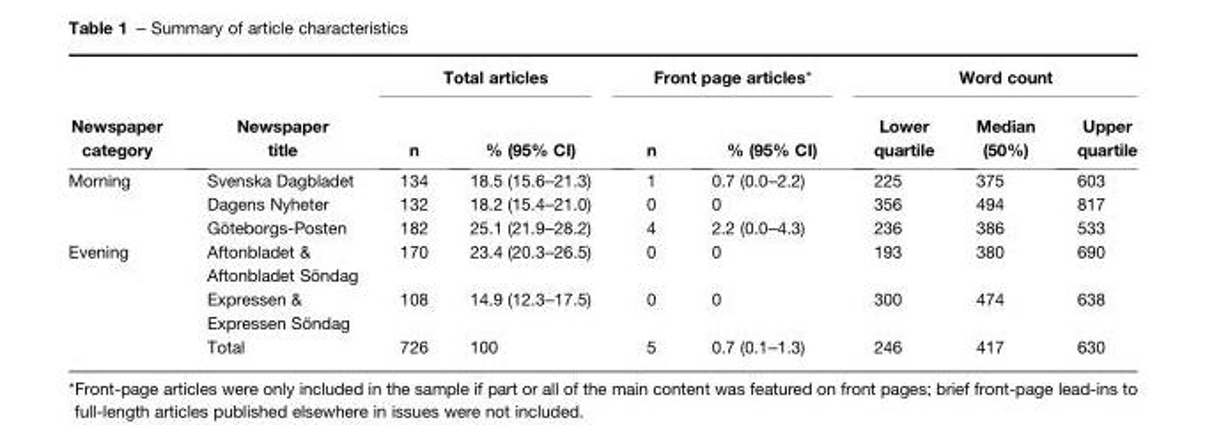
<table><thead><tr><td rowspan="2">Newspaper category</td><td rowspan="2">Newspaper title</td><td colspan="2">Total articles</td><td colspan="2">Front page articles*</td><td colspan="3">Word count</td></tr><tr><td>n</td><td>% (95% CI)</td><td>n</td><td>% (95% CI)</td><td>Lower quartile</td><td>Median (50%)</td><td>Upper quartile</td></tr></thead><tbody><tr><td rowspan="3">Morning</td><td>Svenska Dagbladet</td><td>134</td><td>18.5 (15.6–21.3)</td><td>1</td><td>0.7 (0.0–2.2)</td><td>225</td><td>375</td><td>603</td></tr><tr><td>Dagens Nyheter</td><td>132</td><td>18.2 (15.4–21.0)</td><td>0</td><td>0</td><td>356</td><td>494</td><td>817</td></tr><tr><td>Göteborgs-Posten</td><td>182</td><td>25.1 (21.9–28.2)</td><td>4</td><td>2.2 (0.0–4.3)</td><td>236</td><td>386</td><td>533</td></tr><tr><td rowspan="3">Evening</td><td>Aftonbladet &amp; Aftonbladet Söndag</td><td>170</td><td>23.4 (20.3–26.5)</td><td>0</td><td>0</td><td>193</td><td>380</td><td>690</td></tr><tr><td>Expressen &amp; Expressen Söndag</td><td>108</td><td>14.9 (12.3–17.5)</td><td>0</td><td>0</td><td>300</td><td>474</td><td>638</td></tr><tr><td>Total</td><td>726</td><td>100</td><td>5</td><td>0.7 (0.1–1.3)</td><td>246</td><td>417</td><td>630</td></tr></tbody></table>